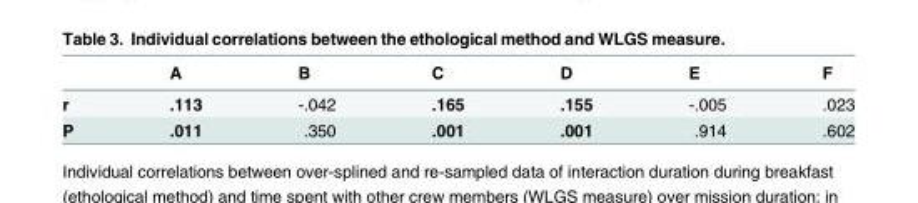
<table><thead><tr><td></td><td>A</td><td>B</td><td>C</td><td>D</td><td>E</td><td>F</td></tr></thead><tbody><tr><td>r</td><td>.113</td><td>-.042</td><td>.165</td><td>.155</td><td>-.005</td><td>.023</td></tr><tr><td>P</td><td>.011</td><td>.350</td><td>.001</td><td>.001</td><td>.914</td><td>.602</td></tr></tbody></table>